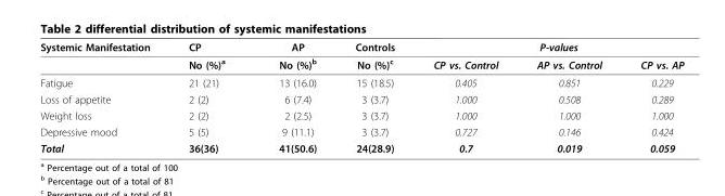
<table><thead><tr><td rowspan="2">Systemic Manifestation</td><td rowspan="2">CP No (%)a</td><td rowspan="2">AP No (%)b</td><td rowspan="2">Controls No (%)c</td><td colspan="3">P-values</td></tr><tr><td>CP vs. Control</td><td>AP vs. Control</td><td>CP vs. AP</td></tr></thead><tbody><tr><td>Fatigue</td><td>21 (21)</td><td>13 (16.0)</td><td>15 (18.5)</td><td>0.405</td><td>0.851</td><td>0.229</td></tr><tr><td>Loss of appetite</td><td>2 (2)</td><td>6 (7.4)</td><td>3 (3.7)</td><td>1.000</td><td>0.508</td><td>0.289</td></tr><tr><td>Weight loss</td><td>2 (2)</td><td>2 (2.5)</td><td>3 (3.7)</td><td>1.000</td><td>1.000</td><td>1.000</td></tr><tr><td>Depressive mood</td><td>5 (5)</td><td>9 (11.1)</td><td>3 (3.7)</td><td>0.727</td><td>0.146</td><td>0.424</td></tr><tr><td>Total</td><td>36(36)</td><td>41(50.6)</td><td>24(28.9)</td><td>0.7</td><td>0.019</td><td>0.059</td></tr></tbody></table>